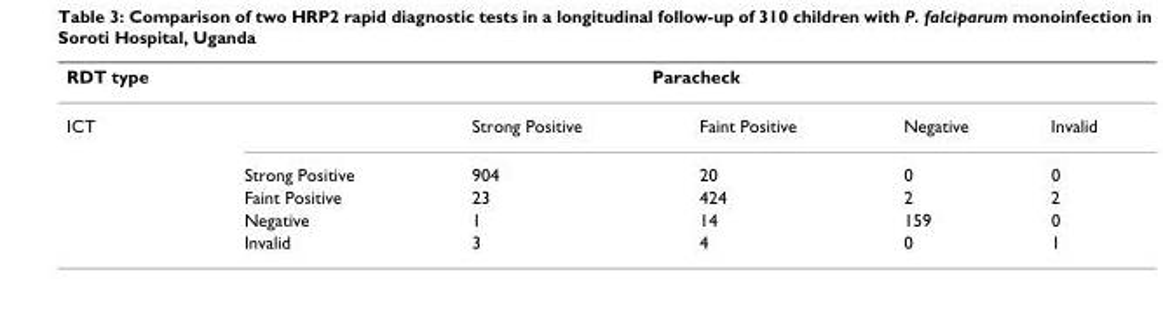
<table><thead><tr><td rowspan="2">RDT type ICT</td><td colspan="5">Paracheck</td></tr><tr><td></td><td>Strong Positive</td><td>Faint Positive</td><td>Negative</td><td>Invalid</td></tr></thead><tbody><tr><td></td><td>Strong Positive</td><td>904</td><td>20</td><td>0</td><td>0</td></tr><tr><td></td><td>Faint Positive</td><td>23</td><td>424</td><td>2</td><td>2</td></tr><tr><td></td><td>Negative</td><td>1</td><td>14</td><td>159</td><td>0</td></tr><tr><td></td><td>Invalid</td><td>3</td><td>4</td><td>0</td><td>1</td></tr></tbody></table>